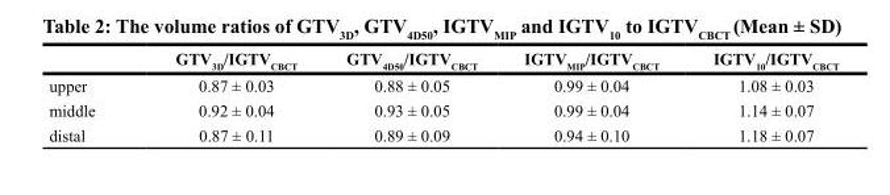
<table><thead><tr><td></td><td>GTV<sub>3D</sub>/IGTV<sub>CBCT</sub></td><td>GTV<sub>4D50</sub>/IGTV<sub>CBCT</sub></td><td>IGTV<sub>MIP</sub>/IGTV<sub>CBCT</sub></td><td>IGTV<sub>10</sub>/IGTV<sub>CBCT</sub></td></tr></thead><tbody><tr><td>upper</td><td>0.87 ± 0.03</td><td>0.88 ± 0.05</td><td>0.99 ± 0.04</td><td>1.08 ± 0.03</td></tr><tr><td>middle</td><td>0.92 ± 0.04</td><td>0.93 ± 0.05</td><td>0.99 ± 0.04</td><td>1.14 ± 0.07</td></tr><tr><td>distal</td><td>0.87 ± 0.11</td><td>0.89 ± 0.09</td><td>0.94 ± 0.10</td><td>1.18 ± 0.07</td></tr></tbody></table>